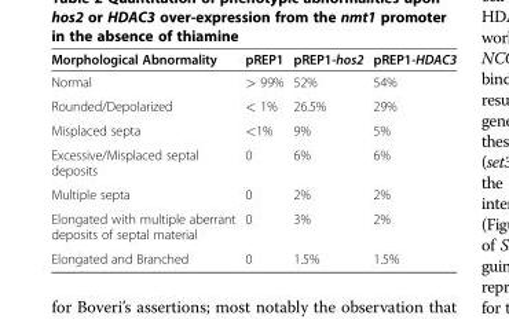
<table><thead><tr><td>Morphological Abnormality</td><td>pREP1</td><td>pREP1-hos2</td><td>pREP1-HDAC3</td></tr></thead><tbody><tr><td>Normal</td><td>&gt; 99%</td><td>52%</td><td>54%</td></tr><tr><td>Rounded/Depolarized</td><td>&lt; 1%</td><td>26.5%</td><td>29%</td></tr><tr><td>Misplaced septa</td><td>&lt;1%</td><td>9%</td><td>5%</td></tr><tr><td>Excessive/Misplaced septal deposits</td><td>0</td><td>6%</td><td>6%</td></tr><tr><td>Multiple septa</td><td>0</td><td>2%</td><td>2%</td></tr><tr><td>Elongated with multiple aberrant deposits of septal material</td><td>0</td><td>3%</td><td>2%</td></tr><tr><td>Elongated and Branched</td><td>0</td><td>1.5%</td><td>1.5%</td></tr></tbody></table>